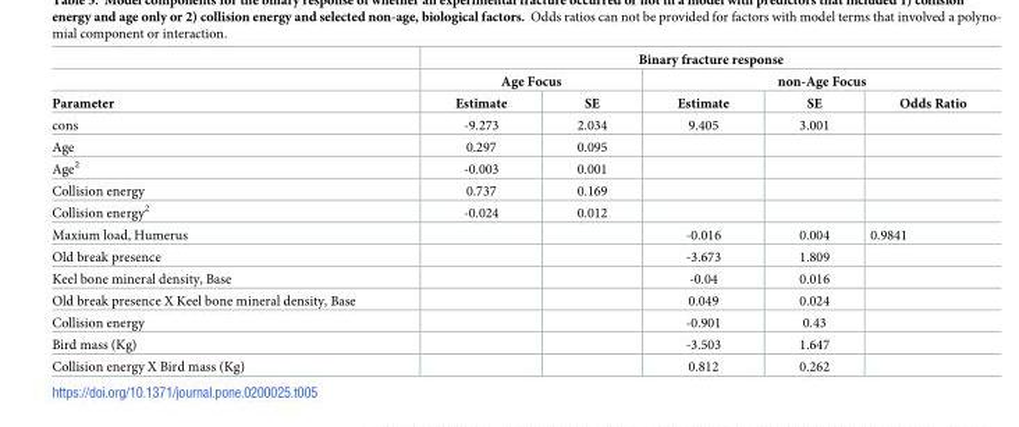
<table><thead><tr><td rowspan="3">Parameter</td><td colspan="5">Binary fracture response</td></tr><tr><td colspan="2">Age Focus</td><td colspan="3">non-Age Focus</td></tr><tr><td>Estimate</td><td>SE</td><td>Estimate</td><td>SE</td><td>Odds Ratio</td></tr></thead><tbody><tr><td>cons</td><td>-9.273</td><td>2.034</td><td>9.405</td><td>3.001</td><td></td></tr><tr><td>Age</td><td>0.297</td><td>0.095</td><td></td><td></td><td></td></tr><tr><td>Age<sup>2</sup></td><td>-0.003</td><td>0.001</td><td></td><td></td><td></td></tr><tr><td>Collision energy</td><td>0.737</td><td>0.169</td><td></td><td></td><td></td></tr><tr><td>Collision energy<sup>2</sup></td><td>-0.024</td><td>0.012</td><td></td><td></td><td></td></tr><tr><td>Maxium load, Humerus</td><td></td><td></td><td>-0.016</td><td>0.004</td><td>0.9841</td></tr><tr><td>Old break presence</td><td></td><td></td><td>-3.673</td><td>1.809</td><td></td></tr><tr><td>Keel bone mineral density, Base</td><td></td><td></td><td>-0.04</td><td>0.016</td><td></td></tr><tr><td>Old break presence X Keel bone mineral density, Base</td><td></td><td></td><td>0.049</td><td>0.024</td><td></td></tr><tr><td>Collision energy</td><td></td><td></td><td>-0.901</td><td>0.43</td><td></td></tr><tr><td>Bird mass (Kg)</td><td></td><td></td><td>-3.503</td><td>1.647</td><td></td></tr><tr><td>Collision energy X Bird mass (Kg)</td><td></td><td></td><td>0.812</td><td>0.262</td><td></td></tr></tbody></table>